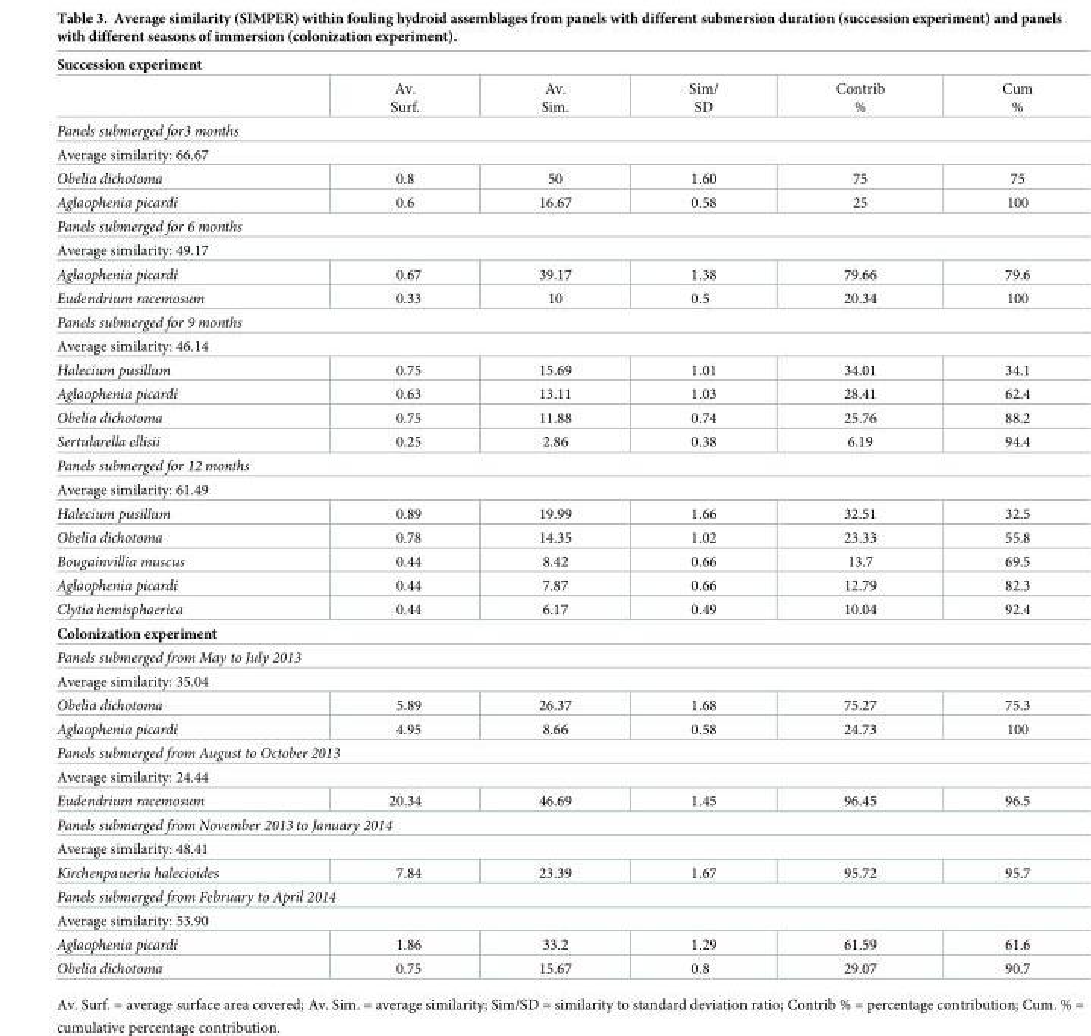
<table><tbody><tr><td colspan="6">Succession experiment</td></tr><tr><td></td><td>Av. Surf.</td><td>Av. Sim.</td><td>Sim/ SD</td><td>Contrib %</td><td>Cum %</td></tr><tr><td colspan="6">Panels submerged for3 months</td></tr><tr><td colspan="6">Average similarity: 66.67</td></tr><tr><td>Obelia dichotoma</td><td>0.8</td><td>50</td><td>1.60</td><td>75</td><td>75</td></tr><tr><td>Aglaophenia picardi</td><td>0.6</td><td>16.67</td><td>0.58</td><td>25</td><td>100</td></tr><tr><td colspan="6">Panels submerged for 6 months</td></tr><tr><td colspan="6">Average similarity: 49.17</td></tr><tr><td>Aglaophenia picardi</td><td>0.67</td><td>39.17</td><td>1.38</td><td>79.66</td><td>79.6</td></tr><tr><td>Eudendrium racemosum</td><td>0.33</td><td>10</td><td>0.5</td><td>20.34</td><td>100</td></tr><tr><td colspan="6">Panels submerged for 9 months</td></tr><tr><td colspan="6">Average similarity: 46.14</td></tr><tr><td>Halecium pusillum</td><td>0.75</td><td>15.69</td><td>1.01</td><td>34.01</td><td>34.1</td></tr><tr><td>Aglaophenia picardi</td><td>0.63</td><td>13.11</td><td>1.03</td><td>28.41</td><td>62.4</td></tr><tr><td>Obelia dichotoma</td><td>0.75</td><td>11.88</td><td>0.74</td><td>25.76</td><td>88.2</td></tr><tr><td>Sertularella ellisii</td><td>0.25</td><td>2.86</td><td>0.38</td><td>6.19</td><td>94.4</td></tr><tr><td colspan="6">Panels submerged for 12 months</td></tr><tr><td colspan="6">Average similarity: 61.49</td></tr><tr><td>Halecium pusillum</td><td>0.89</td><td>19.99</td><td>1.66</td><td>32.51</td><td>32.5</td></tr><tr><td>Obelia dichotoma</td><td>0.78</td><td>14.35</td><td>1.02</td><td>23.33</td><td>55.8</td></tr><tr><td>Bougainvillia muscus</td><td>0.44</td><td>8.42</td><td>0.66</td><td>13.7</td><td>69.5</td></tr><tr><td>Aglaophenia picardi</td><td>0.44</td><td>7.87</td><td>0.66</td><td>12.79</td><td>82.3</td></tr><tr><td>Clytia hemisphaerica</td><td>0.44</td><td>6.17</td><td>0.49</td><td>10.04</td><td>92.4</td></tr><tr><td colspan="6">Colonization experiment</td></tr><tr><td colspan="6">Panels submerged from May to July 2013</td></tr><tr><td colspan="6">Average similarity: 35.04</td></tr><tr><td>Obelia dichotoma</td><td>5.89</td><td>26.37</td><td>1.68</td><td>75.27</td><td>75.3</td></tr><tr><td>Aglaophenia picardi</td><td>4.95</td><td>8.66</td><td>0.58</td><td>24.73</td><td>100</td></tr><tr><td colspan="6">Panels submerged from August to October 2013</td></tr><tr><td colspan="6">Average similarity: 24.44</td></tr><tr><td>Eudendrium racemosum</td><td>20.34</td><td>46.69</td><td>1.45</td><td>96.45</td><td>96.5</td></tr><tr><td colspan="6">Panels submerged from November 2013 to January 2014</td></tr><tr><td colspan="6">Average similarity: 48.41</td></tr><tr><td>Kirchenpaueria halecioides</td><td>7.84</td><td>23.39</td><td>1.67</td><td>95.72</td><td>95.7</td></tr><tr><td colspan="6">Panels submerged from February to April 2014</td></tr><tr><td colspan="6">Average similarity: 53.90</td></tr><tr><td>Aglaophenia picardi</td><td>1.86</td><td>33.2</td><td>1.29</td><td>61.59</td><td>61.6</td></tr><tr><td>Obelia dichotoma</td><td>0.75</td><td>15.67</td><td>0.8</td><td>29.07</td><td>90.7</td></tr></tbody></table>